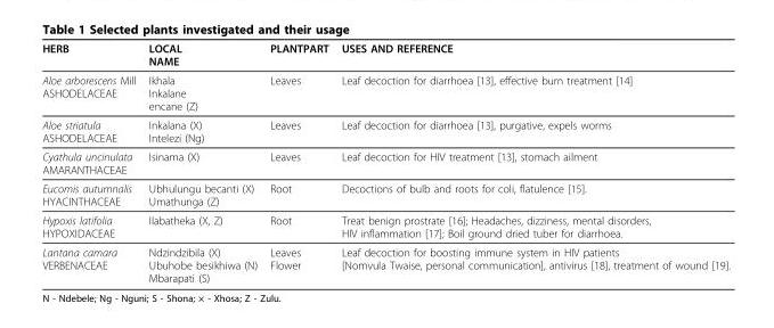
<table><thead><tr><td>HERB</td><td>LOCAL NAME</td><td>PLANTPART</td><td>USES AND REFERENCE</td></tr></thead><tbody><tr><td>Aloe arborescens Mill ASHODELACEAE</td><td>Ikhala Inkalane encane (Z)</td><td>Leaves</td><td>Leaf decoction for diarrhoea [13], effective burn treatment [14]</td></tr><tr><td>Aloe striatula ASHODELACEAE</td><td>Inkalana (X) Intelezi (Ng)</td><td>Leaves</td><td>Leaf decoction for diarrhoea [13], purgative, expels worms</td></tr><tr><td>Cyathula uncinulata AMARANTHACEAE</td><td>Isinama (X)</td><td>Leaves</td><td>Leaf decoction for HIV treatment [13], stomach ailment</td></tr><tr><td>Eucomis autumnalis HYACINTHACEAE</td><td>Ubhulungu becanti (X) Umathunga (Z)</td><td>Root</td><td>Decoctions of bulb and roots for coli, flatulence [15].</td></tr><tr><td>Hypoxis latifolia HYPOXIDACEAE</td><td>Ilabatheka (X, Z)</td><td>Root</td><td>Treat benign prostrate [16]; Headaches, dizziness, mental disorders, HIV inflammation [17]; Boil ground dried tuber for diarrhoea.</td></tr><tr><td>Lantana camara VERBENACEAE</td><td>Ndzindzibila (X) Ubuhobe besikhiwa (N) Mbarapati (S)</td><td>Leaves Flower</td><td>Leaf decoction for boosting immune system in HIV patients [Nomvula Twaise, personal communication], antivirus [18], treatment of wound [19].</td></tr></tbody></table>